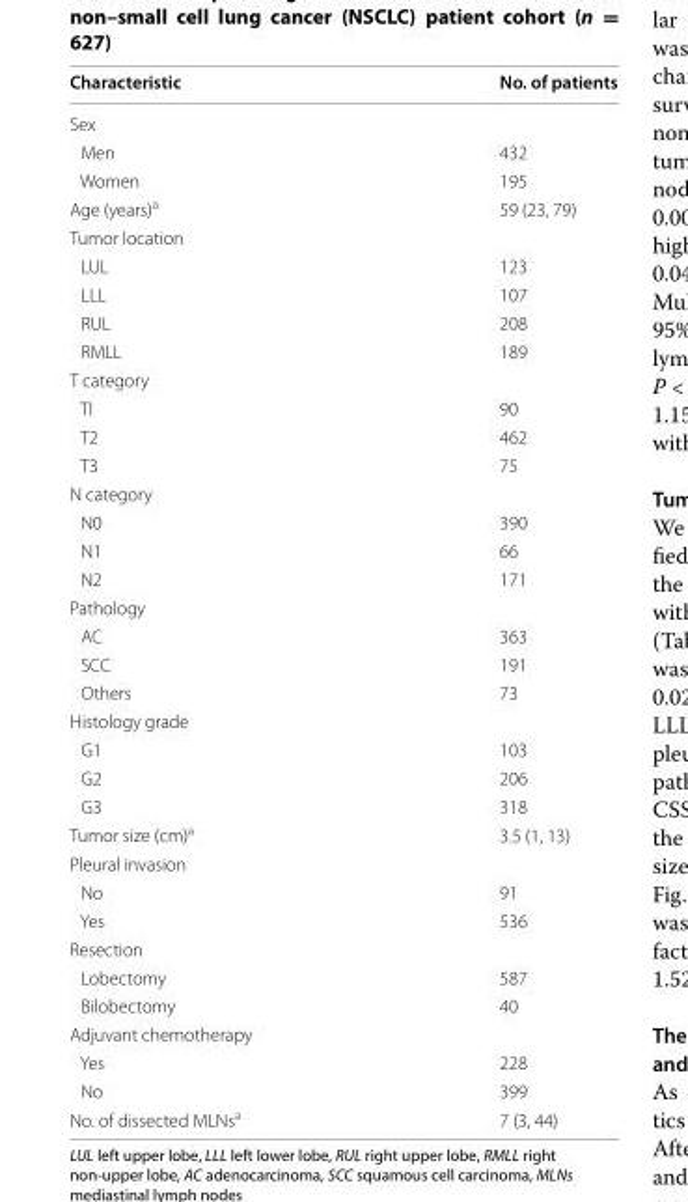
<table><thead><tr><td>Characteristic</td><td>No. of patients</td></tr></thead><tbody><tr><td colspan="2">Sex</td></tr><tr><td>Men</td><td>432</td></tr><tr><td>Women</td><td>195</td></tr><tr><td>Age (years)<sup>a</sup></td><td>59 (23, 79)</td></tr><tr><td colspan="2">Tumor location</td></tr><tr><td>LUL</td><td>123</td></tr><tr><td>LLL</td><td>107</td></tr><tr><td>RUL</td><td>208</td></tr><tr><td>RMLL</td><td>189</td></tr><tr><td colspan="2">T category</td></tr><tr><td>TI</td><td>90</td></tr><tr><td>T2</td><td>462</td></tr><tr><td>T3</td><td>75</td></tr><tr><td colspan="2">N category</td></tr><tr><td>N0</td><td>390</td></tr><tr><td>N1</td><td>66</td></tr><tr><td>N2</td><td>171</td></tr><tr><td colspan="2">Pathology</td></tr><tr><td>AC</td><td>363</td></tr><tr><td>SCC</td><td>191</td></tr><tr><td>Others</td><td>73</td></tr><tr><td colspan="2">Histology grade</td></tr><tr><td>G1</td><td>103</td></tr><tr><td>G2</td><td>206</td></tr><tr><td>G3</td><td>318</td></tr><tr><td>Tumor size (cm)<sup>a</sup></td><td>3.5 (1, 13)</td></tr><tr><td colspan="2">Pleural invasion</td></tr><tr><td>No</td><td>91</td></tr><tr><td>Yes</td><td>536</td></tr><tr><td colspan="2">Resection</td></tr><tr><td>Lobectomy</td><td>587</td></tr><tr><td>Bilobectomy</td><td>40</td></tr><tr><td colspan="2">Adjuvant chemotherapy</td></tr><tr><td>Yes</td><td>228</td></tr><tr><td>No</td><td>399</td></tr><tr><td>No. of dissected MLNs<sup>a</sup></td><td>7 (3, 44)</td></tr></tbody></table>